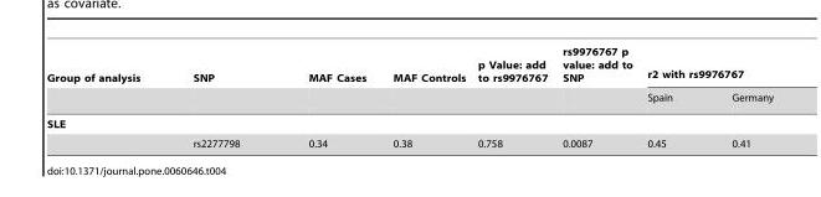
<table><thead><tr><td rowspan="2">Group of analysis</td><td rowspan="2">SNP</td><td rowspan="2">MAF Cases</td><td rowspan="2">MAF Controls</td><td rowspan="2">p Value: add to rs9976767</td><td rowspan="2">rs9976767 p value: add to SNP</td><td colspan="2">r2 with rs9976767</td></tr><tr><td>Spain</td><td>Germany</td></tr></thead><tbody><tr><td colspan="8">SLE</td></tr><tr><td></td><td>rs2277798</td><td>0.34</td><td>0.38</td><td>0.758</td><td>0.0087</td><td>0.45</td><td>0.41</td></tr></tbody></table>